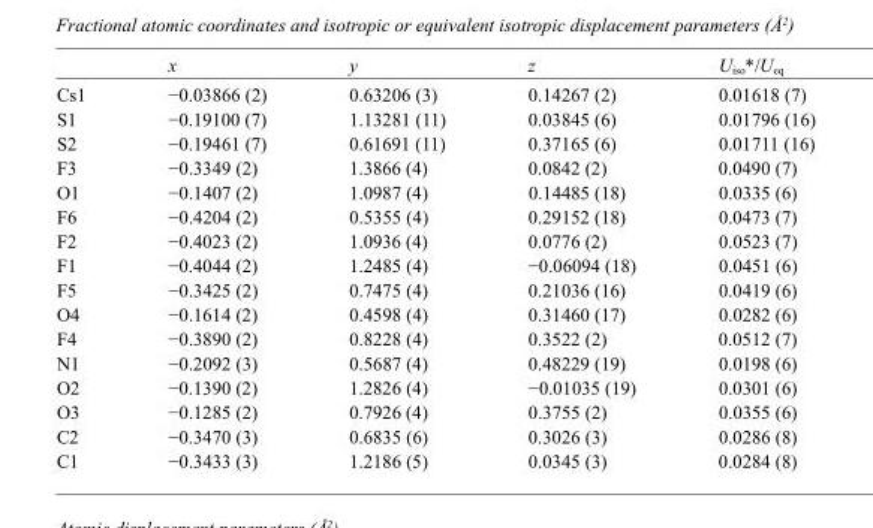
<table><thead><tr><td></td><td>x</td><td>y</td><td>z</td><td>U<sub>iso</sub>*/U<sub>eq</sub></td></tr></thead><tbody><tr><td>Cs1</td><td>−0.03866 (2)</td><td>0.63206 (3)</td><td>0.14267 (2)</td><td>0.01618 (7)</td></tr><tr><td>S1</td><td>−0.19100 (7)</td><td>1.13281 (11)</td><td>0.03845 (6)</td><td>0.01796 (16)</td></tr><tr><td>S2</td><td>−0.19461 (7)</td><td>0.61691 (11)</td><td>0.37165 (6)</td><td>0.01711 (16)</td></tr><tr><td>F3</td><td>−0.3349 (2)</td><td>1.3866 (4)</td><td>0.0842 (2)</td><td>0.0490 (7)</td></tr><tr><td>O1</td><td>−0.1407 (2)</td><td>1.0987 (4)</td><td>0.14485 (18)</td><td>0.0335 (6)</td></tr><tr><td>F6</td><td>−0.4204 (2)</td><td>0.5355 (4)</td><td>0.29152 (18)</td><td>0.0473 (7)</td></tr><tr><td>F2</td><td>−0.4023 (2)</td><td>1.0936 (4)</td><td>0.0776 (2)</td><td>0.0523 (7)</td></tr><tr><td>F1</td><td>−0.4044 (2)</td><td>1.2485 (4)</td><td>−0.06094 (18)</td><td>0.0451 (6)</td></tr><tr><td>F5</td><td>−0.3425 (2)</td><td>0.7475 (4)</td><td>0.21036 (16)</td><td>0.0419 (6)</td></tr><tr><td>O4</td><td>−0.1614 (2)</td><td>0.4598 (4)</td><td>0.31460 (17)</td><td>0.0282 (6)</td></tr><tr><td>F4</td><td>−0.3890 (2)</td><td>0.8228 (4)</td><td>0.3522 (2)</td><td>0.0512 (7)</td></tr><tr><td>N1</td><td>−0.2092 (3)</td><td>0.5687 (4)</td><td>0.48229 (19)</td><td>0.0198 (6)</td></tr><tr><td>O2</td><td>−0.1390 (2)</td><td>1.2826 (4)</td><td>−0.01035 (19)</td><td>0.0301 (6)</td></tr><tr><td>O3</td><td>−0.1285 (2)</td><td>0.7926 (4)</td><td>0.3755 (2)</td><td>0.0355 (6)</td></tr><tr><td>C2</td><td>−0.3470 (3)</td><td>0.6835 (6)</td><td>0.3026 (3)</td><td>0.0286 (8)</td></tr><tr><td>C1</td><td>−0.3433 (3)</td><td>1.2186 (5)</td><td>0.0345 (3)</td><td>0.0284 (8)</td></tr></tbody></table>